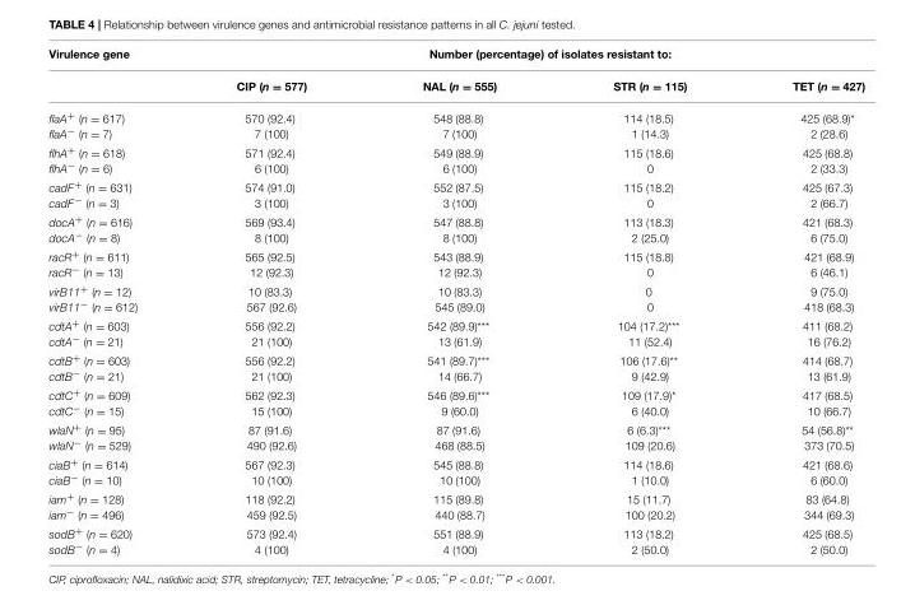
<table><thead><tr><td rowspan="2">Virulence gene</td><td colspan="4">Number (percentage) of isolates resistant to:</td></tr><tr><td>CIP (n = 577)</td><td>NAL (n = 555)</td><td>STR (n = 115)</td><td>TET (n = 427)</td></tr></thead><tbody><tr><td>flaA<sup>+</sup> (n = 617) flaA<sup>−</sup> (n = 7)</td><td>570 (92.4) 7 (100)</td><td>548 (88.8) 7 (100)</td><td>114 (18.5) 1 (14.3)</td><td>425 (68.9)* 2 (28.6)</td></tr><tr><td>flhA<sup>+</sup> (n = 618) flhA<sup>−</sup> (n = 6)</td><td>571 (92.4) 6 (100)</td><td>549 (88.9) 6 (100)</td><td>115 (18.6) 0</td><td>425 (68.8) 2 (33.3)</td></tr><tr><td>cadF<sup>+</sup> (n = 631) cadF<sup>−</sup> (n = 3)</td><td>574 (91.0) 3 (100)</td><td>552 (87.5) 3 (100)</td><td>115 (18.2) 0</td><td>425 (67.3) 2 (66.7)</td></tr><tr><td>docA<sup>+</sup> (n = 616) docA<sup>−</sup> (n = 8)</td><td>569 (93.4) 8 (100)</td><td>547 (88.8) 8 (100)</td><td>113 (18.3) 2 (25.0)</td><td>421 (68.3) 6 (75.0)</td></tr><tr><td>racR<sup>+</sup> (n = 611) racR<sup>−</sup> (n = 13)</td><td>565 (92.5) 12 (92.3)</td><td>543 (88.9) 12 (92.3)</td><td>115 (18.8) 0</td><td>421 (68.9) 6 (46.1)</td></tr><tr><td>virB11<sup>+</sup> (n = 12) virB11<sup>−</sup> (n = 612)</td><td>10 (83.3) 567 (92.6)</td><td>10 (83.3) 545 (89.0)</td><td>0 0</td><td>9 (75.0) 418 (68.3)</td></tr><tr><td>cdtA<sup>+</sup> (n = 603) cdtA<sup>−</sup> (n = 21)</td><td>556 (92.2) 21 (100)</td><td>542 (89.9)*** 13 (61.9)</td><td>104 (17.2)*** 11 (52.4)</td><td>411 (68.2) 16 (76.2)</td></tr><tr><td>cdtB<sup>+</sup> (n = 603) cdtB<sup>−</sup> (n = 21)</td><td>556 (92.2) 21 (100)</td><td>541 (89.7)*** 14 (66.7)</td><td>106 (17.6)** 9 (42.9)</td><td>414 (68.7) 13 (61.9)</td></tr><tr><td>cdtC<sup>+</sup> (n = 609) cdtC<sup>−</sup> (n = 15)</td><td>562 (92.3) 15 (100)</td><td>546 (89.6)*** 9 (60.0)</td><td>109 (17.9)* 6 (40.0)</td><td>417 (68.5) 10 (66.7)</td></tr><tr><td>wlaN<sup>+</sup> (n = 95) wlaN<sup>−</sup> (n = 529)</td><td>87 (91.6) 490 (92.6)</td><td>87 (91.6) 468 (88.5)</td><td>6 (6.3)*** 109 (20.6)</td><td>54 (56.8)** 373 (70.5)</td></tr><tr><td>ciaB<sup>+</sup> (n = 614) ciaB<sup>−</sup> (n = 10)</td><td>567 (92.3) 10 (100)</td><td>545 (88.8) 10 (100)</td><td>114 (18.6) 1 (10.0)</td><td>421 (68.6) 6 (60.0)</td></tr><tr><td>iam<sup>+</sup> (n = 128) iam<sup>−</sup> (n = 496)</td><td>118 (92.2) 459 (92.5)</td><td>115 (89.8) 440 (88.7)</td><td>15 (11.7) 100 (20.2)</td><td>83 (64.8) 344 (69.3)</td></tr><tr><td>sodB<sup>+</sup> (n = 620) sodB<sup>−</sup> (n = 4)</td><td>573 (92.4) 4 (100)</td><td>551 (88.9) 4 (100)</td><td>113 (18.2) 2 (50.0)</td><td>425 (68.5) 2 (50.0)</td></tr></tbody></table>